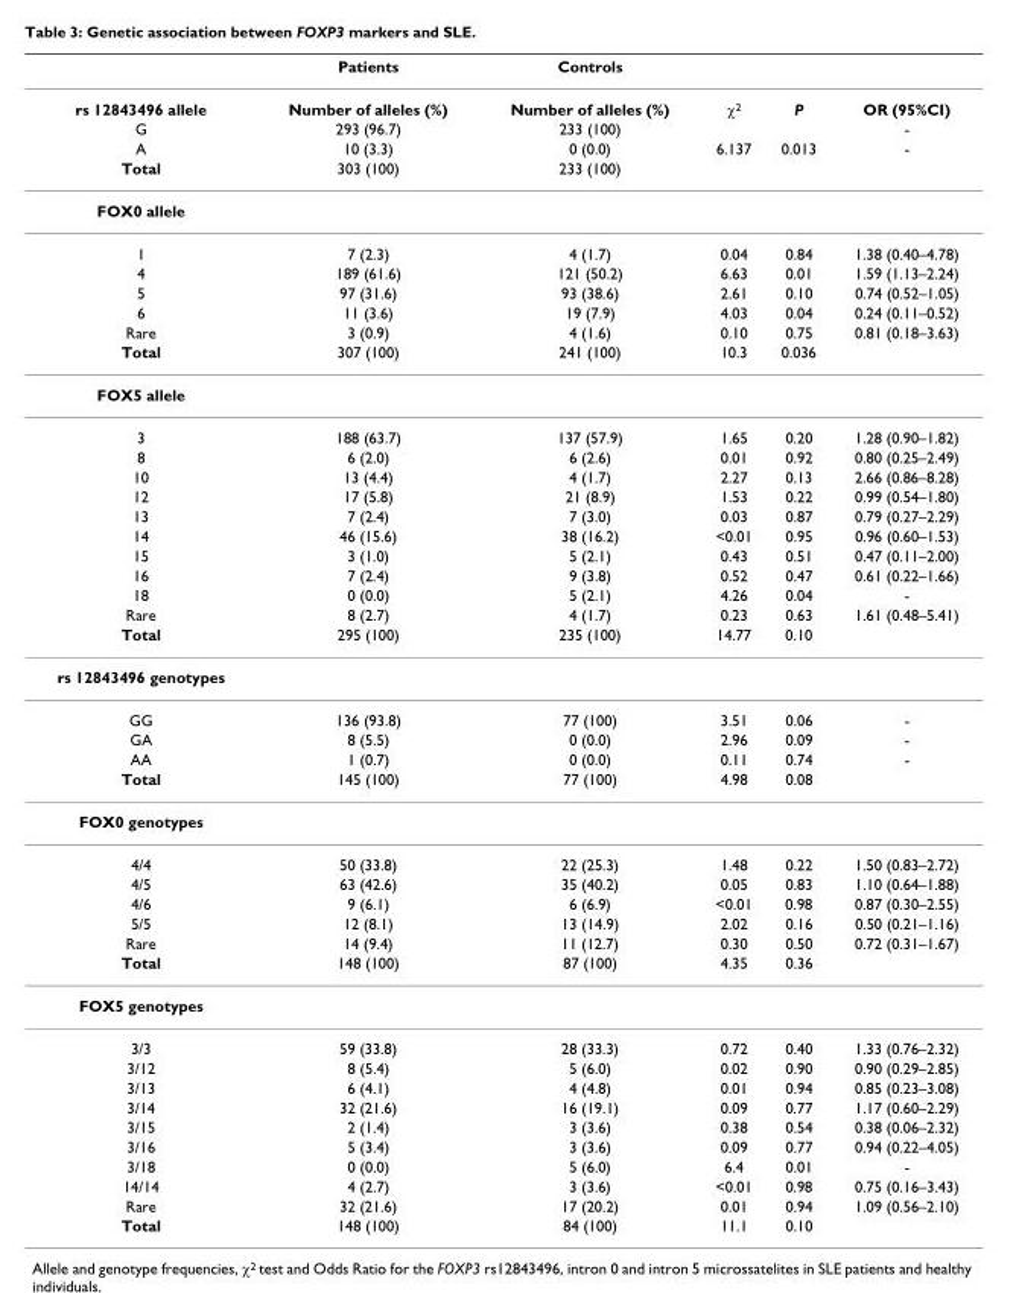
<table><thead><tr><td></td><td>Patients</td><td>Controls</td><td></td><td></td><td></td></tr></thead><tbody><tr><td>rs 12843496 allele</td><td>Number of alleles (%)</td><td>Number of alleles (%)</td><td>χ<sup>2</sup></td><td>P</td><td>OR (95%CI)</td></tr><tr><td>G</td><td>293 (96.7)</td><td>233 (100)</td><td></td><td></td><td>-</td></tr><tr><td>A</td><td>10 (3.3)</td><td>0 (0.0)</td><td>6.137</td><td>0.013</td><td>-</td></tr><tr><td>Total</td><td>303 (100)</td><td>233 (100)</td><td></td><td></td><td></td></tr><tr><td colspan="6">FOX0 allele</td></tr><tr><td>1</td><td>7 (2.3)</td><td>4 (1.7)</td><td>0.04</td><td>0.84</td><td>1.38 (0.40–4.78)</td></tr><tr><td>4</td><td>189 (61.6)</td><td>121 (50.2)</td><td>6.63</td><td>0.01</td><td>1.59 (1.13–2.24)</td></tr><tr><td>5</td><td>97 (31.6)</td><td>93 (38.6)</td><td>2.61</td><td>0.10</td><td>0.74 (0.52–1.05)</td></tr><tr><td>6</td><td>11 (3.6)</td><td>19 (7.9)</td><td>4.03</td><td>0.04</td><td>0.24 (0.11–0.52)</td></tr><tr><td>Rare</td><td>3 (0.9)</td><td>4 (1.6)</td><td>0.10</td><td>0.75</td><td>0.81 (0.18–3.63)</td></tr><tr><td>Total</td><td>307 (100)</td><td>241 (100)</td><td>10.3</td><td>0.036</td><td></td></tr><tr><td colspan="6">FOX5 allele</td></tr><tr><td>3</td><td>188 (63.7)</td><td>137 (57.9)</td><td>1.65</td><td>0.20</td><td>1.28 (0.90–1.82)</td></tr><tr><td>8</td><td>6 (2.0)</td><td>6 (2.6)</td><td>0.01</td><td>0.92</td><td>0.80 (0.25–2.49)</td></tr><tr><td>10</td><td>13 (4.4)</td><td>4 (1.7)</td><td>2.27</td><td>0.13</td><td>2.66 (0.86–8.28)</td></tr><tr><td>12</td><td>17 (5.8)</td><td>21 (8.9)</td><td>1.53</td><td>0.22</td><td>0.99 (0.54–1.80)</td></tr><tr><td>13</td><td>7 (2.4)</td><td>7 (3.0)</td><td>0.03</td><td>0.87</td><td>0.79 (0.27–2.29)</td></tr><tr><td>14</td><td>46 (15.6)</td><td>38 (16.2)</td><td>&lt;0.01</td><td>0.95</td><td>0.96 (0.60–1.53)</td></tr><tr><td>15</td><td>3 (1.0)</td><td>5 (2.1)</td><td>0.43</td><td>0.51</td><td>0.47 (0.11–2.00)</td></tr><tr><td>16</td><td>7 (2.4)</td><td>9 (3.8)</td><td>0.52</td><td>0.47</td><td>0.61 (0.22–1.66)</td></tr><tr><td>18</td><td>0 (0.0)</td><td>5 (2.1)</td><td>4.26</td><td>0.04</td><td>-</td></tr><tr><td>Rare</td><td>8 (2.7)</td><td>4 (1.7)</td><td>0.23</td><td>0.63</td><td>1.61 (0.48–5.41)</td></tr><tr><td>Total</td><td>295 (100)</td><td>235 (100)</td><td>14.77</td><td>0.10</td><td></td></tr><tr><td colspan="6">rs 12843496 genotypes</td></tr><tr><td>GG</td><td>136 (93.8)</td><td>77 (100)</td><td>3.51</td><td>0.06</td><td>-</td></tr><tr><td>GA</td><td>8 (5.5)</td><td>0 (0.0)</td><td>2.96</td><td>0.09</td><td>-</td></tr><tr><td>AA</td><td>1 (0.7)</td><td>0 (0.0)</td><td>0.11</td><td>0.74</td><td>-</td></tr><tr><td>Total</td><td>145 (100)</td><td>77 (100)</td><td>4.98</td><td>0.08</td><td></td></tr><tr><td colspan="6">FOX0 genotypes</td></tr><tr><td>4/4</td><td>50 (33.8)</td><td>22 (25.3)</td><td>1.48</td><td>0.22</td><td>1.50 (0.83–2.72)</td></tr><tr><td>4/5</td><td>63 (42.6)</td><td>35 (40.2)</td><td>0.05</td><td>0.83</td><td>1.10 (0.64–1.88)</td></tr><tr><td>4/6</td><td>9 (6.1)</td><td>6 (6.9)</td><td>&lt;0.01</td><td>0.98</td><td>0.87 (0.30–2.55)</td></tr><tr><td>5/5</td><td>12 (8.1)</td><td>13 (14.9)</td><td>2.02</td><td>0.16</td><td>0.50 (0.21–1.16)</td></tr><tr><td>Rare</td><td>14 (9.4)</td><td>11 (12.7)</td><td>0.30</td><td>0.50</td><td>0.72 (0.31–1.67)</td></tr><tr><td>Total</td><td>148 (100)</td><td>87 (100)</td><td>4.35</td><td>0.36</td><td></td></tr><tr><td colspan="6">FOX5 genotypes</td></tr><tr><td>3/3</td><td>59 (33.8)</td><td>28 (33.3)</td><td>0.72</td><td>0.40</td><td>1.33 (0.76–2.32)</td></tr><tr><td>3/12</td><td>8 (5.4)</td><td>5 (6.0)</td><td>0.02</td><td>0.90</td><td>0.90 (0.29–2.85)</td></tr><tr><td>3/13</td><td>6 (4.1)</td><td>4 (4.8)</td><td>0.01</td><td>0.94</td><td>0.85 (0.23–3.08)</td></tr><tr><td>3/14</td><td>32 (21.6)</td><td>16 (19.1)</td><td>0.09</td><td>0.77</td><td>1.17 (0.60–2.29)</td></tr><tr><td>3/15</td><td>2 (1.4)</td><td>3 (3.6)</td><td>0.38</td><td>0.54</td><td>0.38 (0.06–2.32)</td></tr><tr><td>3/16</td><td>5 (3.4)</td><td>3 (3.6)</td><td>0.09</td><td>0.77</td><td>0.94 (0.22–4.05)</td></tr><tr><td>3/18</td><td>0 (0.0)</td><td>5 (6.0)</td><td>6.4</td><td>0.01</td><td>-</td></tr><tr><td>14/14</td><td>4 (2.7)</td><td>3 (3.6)</td><td>&lt;0.01</td><td>0.98</td><td>0.75 (0.16–3.43)</td></tr><tr><td>Rare</td><td>32 (21.6)</td><td>17 (20.2)</td><td>0.01</td><td>0.94</td><td>1.09 (0.56–2.10)</td></tr><tr><td>Total</td><td>148 (100)</td><td>84 (100)</td><td>11.1</td><td>0.10</td><td></td></tr></tbody></table>